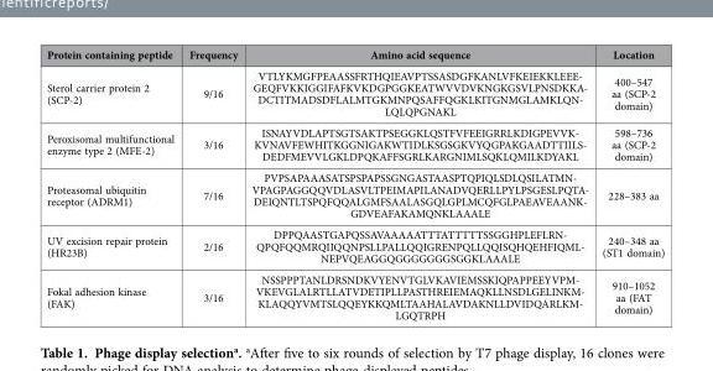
<table><thead><tr><td>Protein containing peptide</td><td>Frequency</td><td>Amino acid sequence</td><td>Location</td></tr></thead><tbody><tr><td>Sterol carrier protein 2 (SCP-2)</td><td>9/16</td><td>VTLYKMGFPEAASSFRTHQIEAVPTSSASDGFKANLVFKEIEKKLEEE- GEQFVKKIGGIFAFKVKDGPGGKEATWVVDVKNGKGSVLPNSDKKA- DCTITMADSDFLALMTGKMNPQSAFFQGKLKITGNMGLAMKLQN- LQLQPGNAKL</td><td>400–547 aa (SCP-2 domain)</td></tr><tr><td>Peroxisomal multifunctional enzyme type 2 (MFE-2)</td><td>3/16</td><td>ISNAYVDLAPTSGTSAKTPSEGGKLQSTFVFEEIGRRLKDIGPEVVK- KVNAVFEWHITKGGNIGAKWTIDLKSGSGKVYQGPAKGAADTTIILS- DEDFMEVVLGKLDPQKAFFSGRLKARGNIMLSQKLQMILKDYAKL</td><td>598–736 aa (SCP-2 domain)</td></tr><tr><td>Proteasomal ubiquitin receptor (ADRM1)</td><td>7/16</td><td>PVPSAPAAASATSPSPAPSSGNGASTAASPTQPIQLSDLQSILATMN- VPAGPAGGQQVDLASVLTPEIMAPILANADVQERLLPYLPSGESLPQTA- DEIQNTLTSPQFQQALGMFSAALASGQLGPLMCQFGLPAEAVEAANK- GDVEAFAKAMQNKLAAALE</td><td>228–383 aa</td></tr><tr><td>UV excision repair protein (HR23B)</td><td>2/16</td><td>DPPQAASTGAPQSSAVAAAAATTTATTTTTSSGGHPLEFLRN- QPQFQQMRQIIQQNPSLLPALLQQIGRENPQLLQQISQHQEHFIQML- NEPVQEAGGQGGGGGGGSGGKLAAALE</td><td>240–348 aa (ST1 domain)</td></tr><tr><td>Fokal adhesion kinase (FAK)</td><td>3/16</td><td>NSSPPPTANLDRSNDKVYENVTGLVKAVIEMSSKIQPAPPEEYVPM- VKEVGLALRTLLATVDETIPLLPASTHREIEMAQKLLNSDLGELINKM- KLAQQYVMTSLQQEYKKQMLTAAHALAVDAKNLLDVIDQARLKM- LGQTRPH</td><td>910–1052 aa (FAT domain)</td></tr></tbody></table>